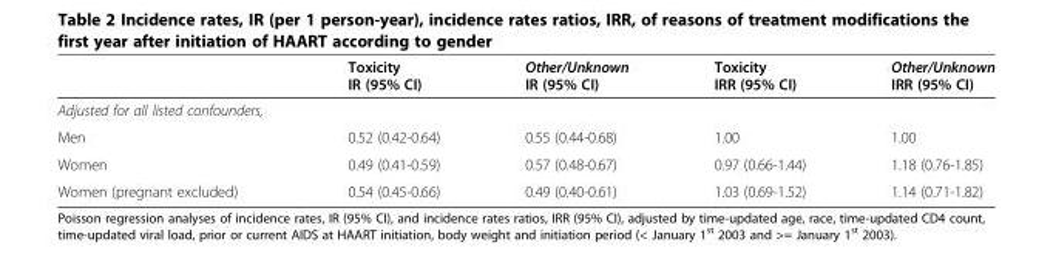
<table><thead><tr><td></td><td>Toxicity IR (95% CI)</td><td>Other/Unknown IR (95% CI)</td><td>Toxicity IRR (95% CI)</td><td>Other/Unknown IRR (95% CI)</td></tr></thead><tbody><tr><td colspan="5">Adjusted for all listed confounders,</td></tr><tr><td>Men</td><td>0.52 (0.42-0.64)</td><td>0.55 (0.44-0.68)</td><td>1.00</td><td>1.00</td></tr><tr><td>Women</td><td>0.49 (0.41-0.59)</td><td>0.57 (0.48-0.67)</td><td>0.97 (0.66-1.44)</td><td>1.18 (0.76-1.85)</td></tr><tr><td>Women (pregnant excluded)</td><td>0.54 (0.45-0.66)</td><td>0.49 (0.40-0.61)</td><td>1.03 (0.69-1.52)</td><td>1.14 (0.71-1.82)</td></tr></tbody></table>